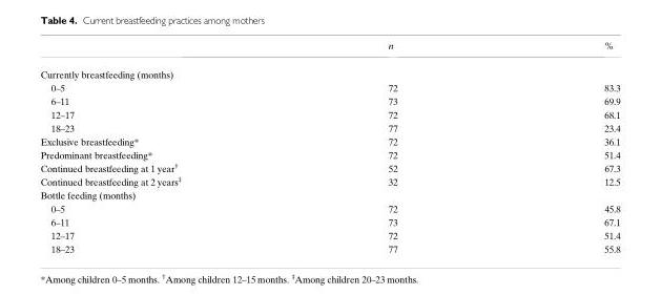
<table><thead><tr><td></td><td>n</td><td>%</td></tr></thead><tbody><tr><td colspan="3">Currently breastfeeding (months)</td></tr><tr><td>0–5</td><td>72</td><td>83.3</td></tr><tr><td>6–11</td><td>73</td><td>69.9</td></tr><tr><td>12–17</td><td>72</td><td>68.1</td></tr><tr><td>18–23</td><td>77</td><td>23.4</td></tr><tr><td>Exclusive breastfeeding*</td><td>72</td><td>36.1</td></tr><tr><td>Predominant breastfeeding*</td><td>72</td><td>51.4</td></tr><tr><td>Continued breastfeeding at 1 year†</td><td>52</td><td>67.3</td></tr><tr><td>Continued breastfeeding at 2 years‡</td><td>32</td><td>12.5</td></tr><tr><td colspan="3">Bottle feeding (months)</td></tr><tr><td>0–5</td><td>72</td><td>45.8</td></tr><tr><td>6–11</td><td>73</td><td>67.1</td></tr><tr><td>12–17</td><td>72</td><td>51.4</td></tr><tr><td>18–23</td><td>77</td><td>55.8</td></tr></tbody></table>